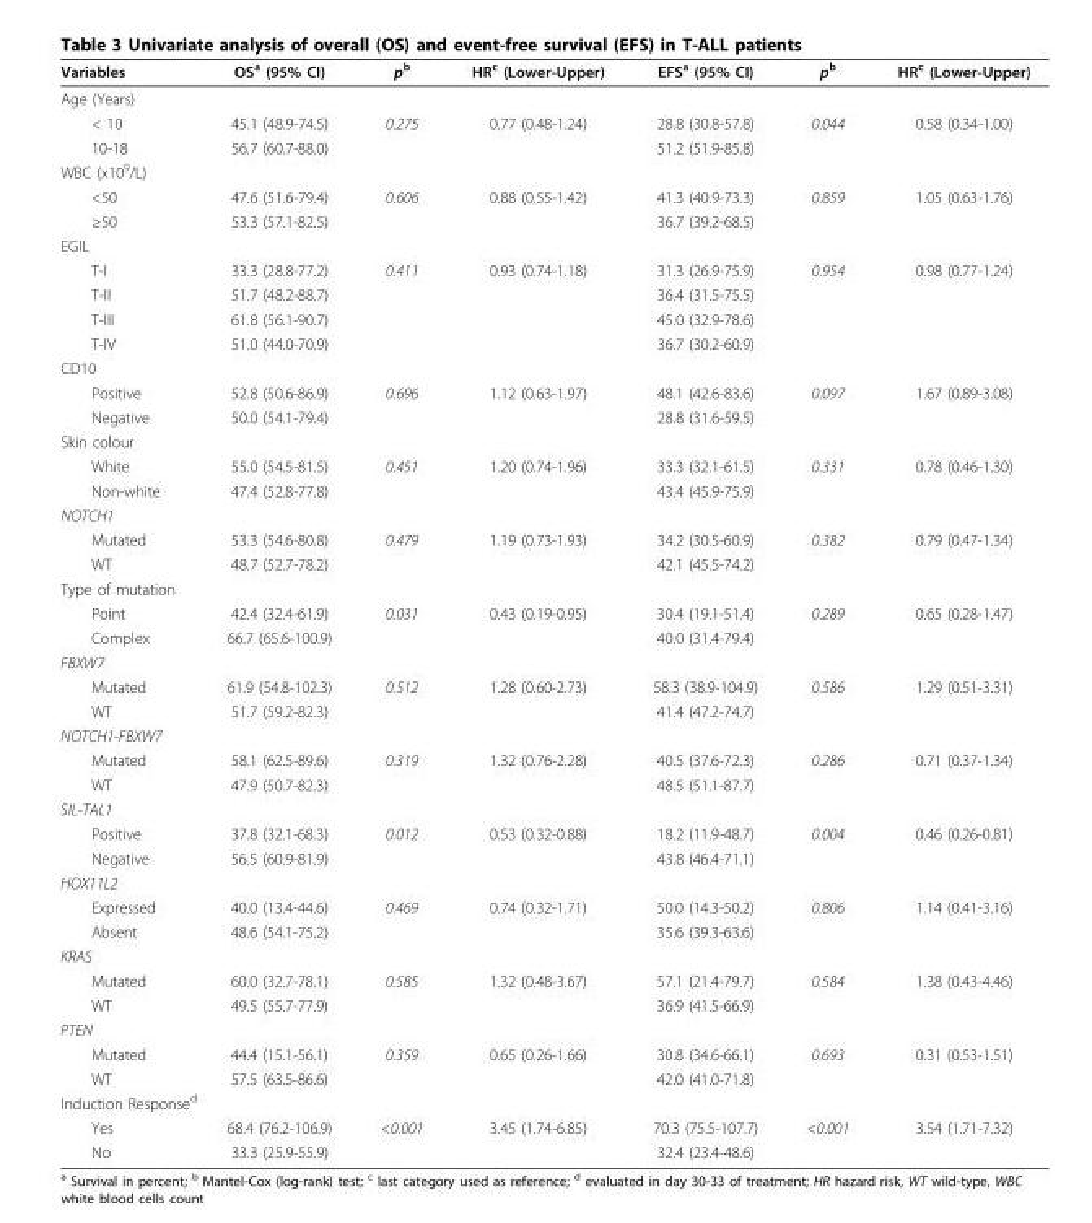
<table><thead><tr><td>Variables</td><td>OS<sup>a</sup> (95% CI)</td><td>p<sup>b</sup></td><td>HR<sup>c</sup> (Lower-Upper)</td><td>EFS<sup>a</sup> (95% CI)</td><td>p<sup>b</sup></td><td>HR<sup>c</sup> (Lower-Upper)</td></tr></thead><tbody><tr><td colspan="7">Age (Years)</td></tr><tr><td>&lt; 10</td><td>45.1 (48.9-74.5)</td><td>0.275</td><td>0.77 (0.48-1.24)</td><td>28.8 (30.8-57.8)</td><td>0.044</td><td>0.58 (0.34-1.00)</td></tr><tr><td>10-18</td><td>56.7 (60.7-88.0)</td><td></td><td></td><td>51.2 (51.9-85.8)</td><td></td><td></td></tr><tr><td colspan="7">WBC (x10<sup>9</sup>/L)</td></tr><tr><td>&lt;50</td><td>47.6 (51.6-79.4)</td><td>0.606</td><td>0.88 (0.55-1.42)</td><td>41.3 (40.9-73.3)</td><td>0.859</td><td>1.05 (0.63-1.76)</td></tr><tr><td>≥50</td><td>53.3 (57.1-82.5)</td><td></td><td></td><td>36.7 (39.2-68.5)</td><td></td><td></td></tr><tr><td colspan="7">EGIL</td></tr><tr><td>T-I</td><td>33.3 (28.8-77.2)</td><td>0.411</td><td>0.93 (0.74-1.18)</td><td>31.3 (26.9-75.9)</td><td>0.954</td><td>0.98 (0.77-1.24)</td></tr><tr><td>T-II</td><td>51.7 (48.2-88.7)</td><td></td><td></td><td>36.4 (31.5-75.5)</td><td></td><td></td></tr><tr><td>T-III</td><td>61.8 (56.1-90.7)</td><td></td><td></td><td>45.0 (32.9-78.6)</td><td></td><td></td></tr><tr><td>T-IV</td><td>51.0 (44.0-70.9)</td><td></td><td></td><td>36.7 (30.2-60.9)</td><td></td><td></td></tr><tr><td colspan="7">CD10</td></tr><tr><td>Positive</td><td>52.8 (50.6-86.9)</td><td>0.696</td><td>1.12 (0.63-1.97)</td><td>48.1 (42.6-83.6)</td><td>0.097</td><td>1.67 (0.89-3.08)</td></tr><tr><td>Negative</td><td>50.0 (54.1-79.4)</td><td></td><td></td><td>28.8 (31.6-59.5)</td><td></td><td></td></tr><tr><td colspan="7">Skin colour</td></tr><tr><td>White</td><td>55.0 (54.5-81.5)</td><td>0.451</td><td>1.20 (0.74-1.96)</td><td>33.3 (32.1-61.5)</td><td>0.331</td><td>0.78 (0.46-1.30)</td></tr><tr><td>Non-white</td><td>47.4 (52.8-77.8)</td><td></td><td></td><td>43.4 (45.9-75.9)</td><td></td><td></td></tr><tr><td colspan="7">NOTCH1</td></tr><tr><td>Mutated</td><td>53.3 (54.6-80.8)</td><td>0.479</td><td>1.19 (0.73-1.93)</td><td>34.2 (30.5-60.9)</td><td>0.382</td><td>0.79 (0.47-1.34)</td></tr><tr><td>WT</td><td>48.7 (52.7-78.2)</td><td></td><td></td><td>42.1 (45.5-74.2)</td><td></td><td></td></tr><tr><td colspan="7">Type of mutation</td></tr><tr><td>Point</td><td>42.4 (32.4-61.9)</td><td>0.031</td><td>0.43 (0.19-0.95)</td><td>30.4 (19.1-51.4)</td><td>0.289</td><td>0.65 (0.28-1.47)</td></tr><tr><td>Complex</td><td>66.7 (65.6-100.9)</td><td></td><td></td><td>40.0 (31.4-79.4)</td><td></td><td></td></tr><tr><td colspan="7">FBXW7</td></tr><tr><td>Mutated</td><td>61.9 (54.8-102.3)</td><td>0.512</td><td>1.28 (0.60-2.73)</td><td>58.3 (38.9-104.9)</td><td>0.586</td><td>1.29 (0.51-3.31)</td></tr><tr><td>WT</td><td>51.7 (59.2-82.3)</td><td></td><td></td><td>41.4 (47.2-74.7)</td><td></td><td></td></tr><tr><td colspan="7">NOTCH1-FBXW7</td></tr><tr><td>Mutated</td><td>58.1 (62.5-89.6)</td><td>0.319</td><td>1.32 (0.76-2.28)</td><td>40.5 (37.6-72.3)</td><td>0.286</td><td>0.71 (0.37-1.34)</td></tr><tr><td>WT</td><td>47.9 (50.7-82.3)</td><td></td><td></td><td>48.5 (51.1-87.7)</td><td></td><td></td></tr><tr><td colspan="7">SIL-TAL1</td></tr><tr><td>Positive</td><td>37.8 (32.1-68.3)</td><td>0.012</td><td>0.53 (0.32-0.88)</td><td>18.2 (11.9-48.7)</td><td>0.004</td><td>0.46 (0.26-0.81)</td></tr><tr><td>Negative</td><td>56.5 (60.9-81.9)</td><td></td><td></td><td>43.8 (46.4-71.1)</td><td></td><td></td></tr><tr><td colspan="7">HOX11L2</td></tr><tr><td>Expressed</td><td>40.0 (13.4-44.6)</td><td>0.469</td><td>0.74 (0.32-1.71)</td><td>50.0 (14.3-50.2)</td><td>0.806</td><td>1.14 (0.41-3.16)</td></tr><tr><td>Absent</td><td>48.6 (54.1-75.2)</td><td></td><td></td><td>35.6 (39.3-63.6)</td><td></td><td></td></tr><tr><td colspan="7">KRAS</td></tr><tr><td>Mutated</td><td>60.0 (32.7-78.1)</td><td>0.585</td><td>1.32 (0.48-3.67)</td><td>57.1 (21.4-79.7)</td><td>0.584</td><td>1.38 (0.43-4.46)</td></tr><tr><td>WT</td><td>49.5 (55.7-77.9)</td><td></td><td></td><td>36.9 (41.5-66.9)</td><td></td><td></td></tr><tr><td colspan="7">PTEN</td></tr><tr><td>Mutated</td><td>44.4 (15.1-56.1)</td><td>0.359</td><td>0.65 (0.26-1.66)</td><td>30.8 (34.6-66.1)</td><td>0.693</td><td>0.31 (0.53-1.51)</td></tr><tr><td>WT</td><td>57.5 (63.5-86.6)</td><td></td><td></td><td>42.0 (41.0-71.8)</td><td></td><td></td></tr><tr><td colspan="7">Induction Response<sup>d</sup></td></tr><tr><td>Yes</td><td>68.4 (76.2-106.9)</td><td>&lt;0.001</td><td>3.45 (1.74-6.85)</td><td>70.3 (75.5-107.7)</td><td>&lt;0.001</td><td>3.54 (1.71-7.32)</td></tr><tr><td>No</td><td>33.3 (25.9-55.9)</td><td></td><td></td><td>32.4 (23.4-48.6)</td><td></td><td></td></tr></tbody></table>